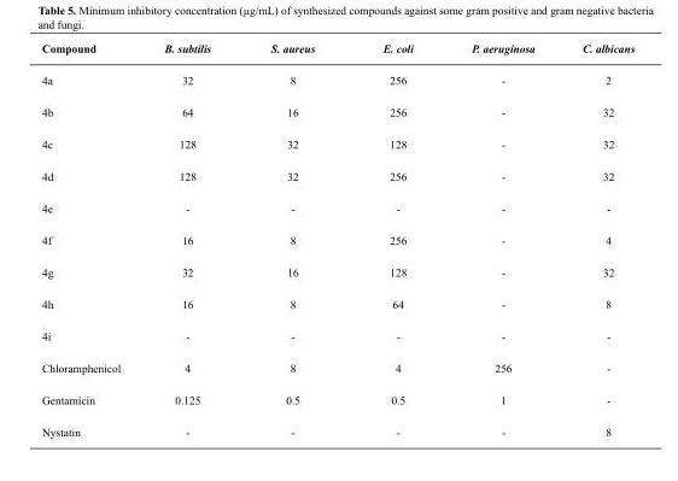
<table><thead><tr><td>Compound</td><td>B. subtilis</td><td>S. aureus</td><td>E. coli</td><td>P. aeruginosa</td><td>C. albicans</td></tr></thead><tbody><tr><td>4a</td><td>32</td><td>8</td><td>256</td><td>-</td><td>2</td></tr><tr><td>4b</td><td>64</td><td>16</td><td>256</td><td>-</td><td>32</td></tr><tr><td>4c</td><td>128</td><td>32</td><td>128</td><td>-</td><td>32</td></tr><tr><td>4d</td><td>128</td><td>32</td><td>256</td><td>-</td><td>32</td></tr><tr><td>4e</td><td>-</td><td>-</td><td>-</td><td>-</td><td>-</td></tr><tr><td>4f</td><td>16</td><td>8</td><td>256</td><td>-</td><td>4</td></tr><tr><td>4g</td><td>32</td><td>16</td><td>128</td><td>-</td><td>32</td></tr><tr><td>4h</td><td>16</td><td>8</td><td>64</td><td>-</td><td>8</td></tr><tr><td>4i</td><td>-</td><td>-</td><td>-</td><td>-</td><td>-</td></tr><tr><td>Chloramphenicol</td><td>4</td><td>8</td><td>4</td><td>256</td><td>-</td></tr><tr><td>Gentamicin</td><td>0.125</td><td>0.5</td><td>0.5</td><td>1</td><td>-</td></tr><tr><td>Nystatin</td><td>-</td><td>-</td><td>-</td><td>-</td><td>8</td></tr></tbody></table>